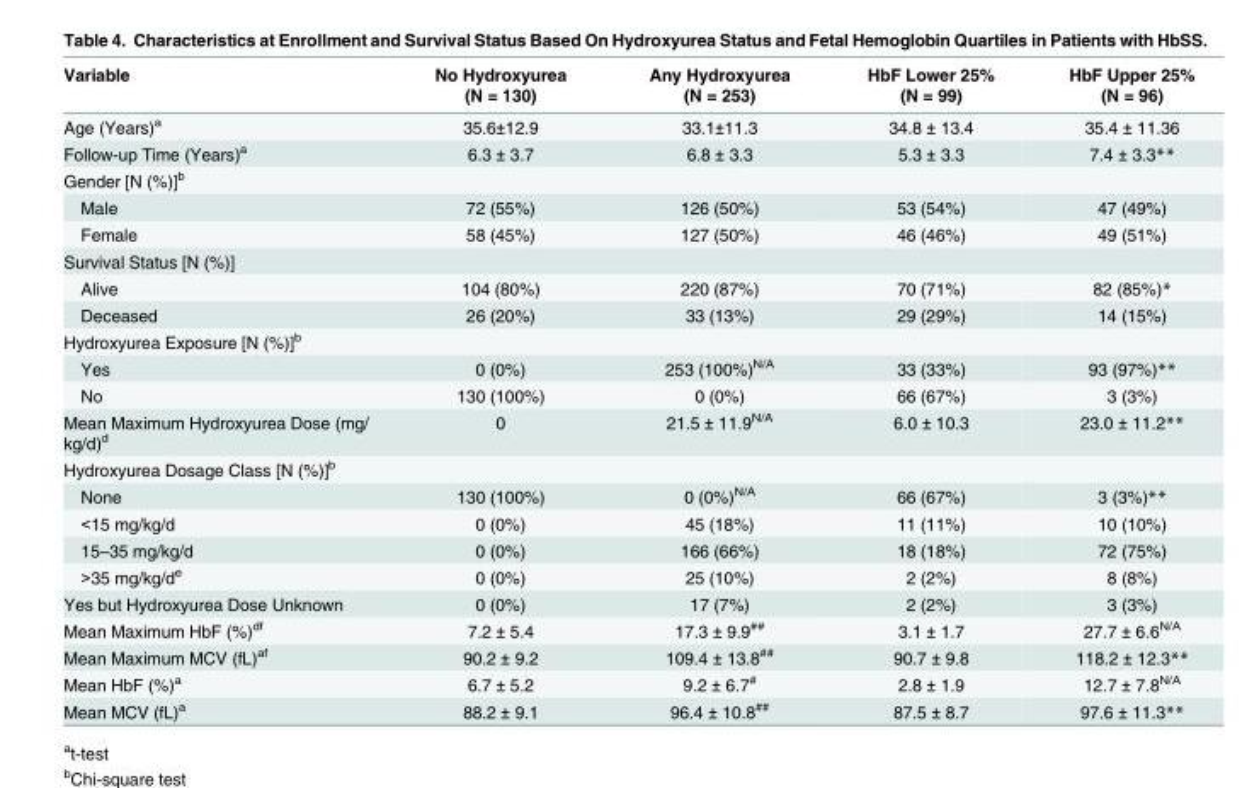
<table><thead><tr><td>Variable</td><td>No Hydroxyurea (N = 130)</td><td>Any Hydroxyurea (N = 253)</td><td>HbF Lower 25% (N = 99)</td><td>HbF Upper 25% (N = 96)</td></tr></thead><tbody><tr><td>Age (Years)<sup>a</sup></td><td>35.6±12.9</td><td>33.1±11.3</td><td>34.8 ± 13.4</td><td>35.4 ± 11.36</td></tr><tr><td>Follow-up Time (Years)<sup>a</sup></td><td>6.3 ± 3.7</td><td>6.8 ± 3.3</td><td>5.3 ± 3.3</td><td>7.4 ± 3.3**</td></tr><tr><td colspan="5">Gender [N (%)]<sup>b</sup></td></tr><tr><td>Male</td><td>72 (55%)</td><td>126 (50%)</td><td>53 (54%)</td><td>47 (49%)</td></tr><tr><td>Female</td><td>58 (45%)</td><td>127 (50%)</td><td>46 (46%)</td><td>49 (51%)</td></tr><tr><td colspan="5">Survival Status [N (%)]</td></tr><tr><td>Alive</td><td>104 (80%)</td><td>220 (87%)</td><td>70 (71%)</td><td>82 (85%)*</td></tr><tr><td>Deceased</td><td>26 (20%)</td><td>33 (13%)</td><td>29 (29%)</td><td>14 (15%)</td></tr><tr><td colspan="5">Hydroxyurea Exposure [N (%)]<sup>b</sup></td></tr><tr><td>Yes</td><td>0 (0%)</td><td>253 (100%)<sup>N/A</sup></td><td>33 (33%)</td><td>93 (97%)**</td></tr><tr><td>No</td><td>130 (100%)</td><td>0 (0%)</td><td>66 (67%)</td><td>3 (3%)</td></tr><tr><td>Mean Maximum Hydroxyurea Dose (mg/ kg/d)<sup>d</sup></td><td>0</td><td>21.5 ± 11.9<sup>N/A</sup></td><td>6.0 ± 10.3</td><td>23.0 ± 11.2**</td></tr><tr><td colspan="5">Hydroxyurea Dosage Class [N (%)]<sup>b</sup></td></tr><tr><td>None</td><td>130 (100%)</td><td>0 (0%)<sup>N/A</sup></td><td>66 (67%)</td><td>3 (3%)**</td></tr><tr><td>&lt;15 mg/kg/d</td><td>0 (0%)</td><td>45 (18%)</td><td>11 (11%)</td><td>10 (10%)</td></tr><tr><td>15–35 mg/kg/d</td><td>0 (0%)</td><td>166 (66%)</td><td>18 (18%)</td><td>72 (75%)</td></tr><tr><td>&gt;35 mg/kg/d<sup>e</sup></td><td>0 (0%)</td><td>25 (10%)</td><td>2 (2%)</td><td>8 (8%)</td></tr><tr><td>Yes but Hydroxyurea Dose Unknown</td><td>0 (0%)</td><td>17 (7%)</td><td>2 (2%)</td><td>3 (3%)</td></tr><tr><td>Mean Maximum HbF (%)<sup>df</sup></td><td>7.2 ± 5.4</td><td>17.3 ± 9.9<sup>##</sup></td><td>3.1 ± 1.7</td><td>27.7 ± 6.6<sup>N/A</sup></td></tr><tr><td>Mean Maximum MCV (fL)<sup>af</sup></td><td>90.2 ± 9.2</td><td>109.4 ± 13.8<sup>##</sup></td><td>90.7 ± 9.8</td><td>118.2 ± 12.3**</td></tr><tr><td>Mean HbF (%)<sup>a</sup></td><td>6.7 ± 5.2</td><td>9.2 ± 6.7<sup>#</sup></td><td>2.8 ± 1.9</td><td>12.7 ± 7.8<sup>N/A</sup></td></tr><tr><td>Mean MCV (fL)<sup>a</sup></td><td>88.2 ± 9.1</td><td>96.4 ± 10.8<sup>##</sup></td><td>87.5 ± 8.7</td><td>97.6 ± 11.3**</td></tr></tbody></table>